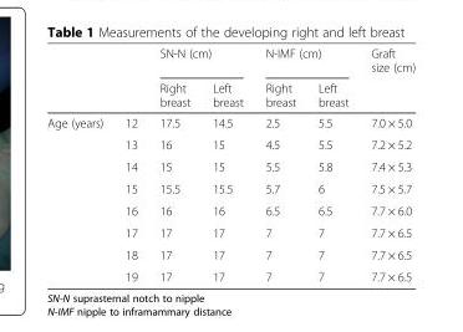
<table><thead><tr><td rowspan="2"></td><td rowspan="2"></td><td colspan="2">SN-N (cm)</td><td colspan="2">N-IMF (cm)</td><td rowspan="2">Graft size (cm)</td></tr><tr><td>Right breast</td><td>Left breast</td><td>Right breast</td><td>Left breast</td></tr></thead><tbody><tr><td rowspan="8">Age (years)</td><td>12</td><td>17.5</td><td>14.5</td><td>2.5</td><td>5.5</td><td>7.0 × 5.0</td></tr><tr><td>13</td><td>16</td><td>15</td><td>4.5</td><td>5.5</td><td>7.2 × 5.2</td></tr><tr><td>14</td><td>15</td><td>15</td><td>5.5</td><td>5.8</td><td>7.4 × 5.3</td></tr><tr><td>15</td><td>15.5</td><td>15.5</td><td>5.7</td><td>6</td><td>7.5 × 5.7</td></tr><tr><td>16</td><td>16</td><td>16</td><td>6.5</td><td>6.5</td><td>7.7 × 6.0</td></tr><tr><td>17</td><td>17</td><td>17</td><td>7</td><td>7</td><td>7.7 × 6.5</td></tr><tr><td>18</td><td>17</td><td>17</td><td>7</td><td>7</td><td>7.7 × 6.5</td></tr><tr><td>19</td><td>17</td><td>17</td><td>7</td><td>7</td><td>7.7 × 6.5</td></tr></tbody></table>